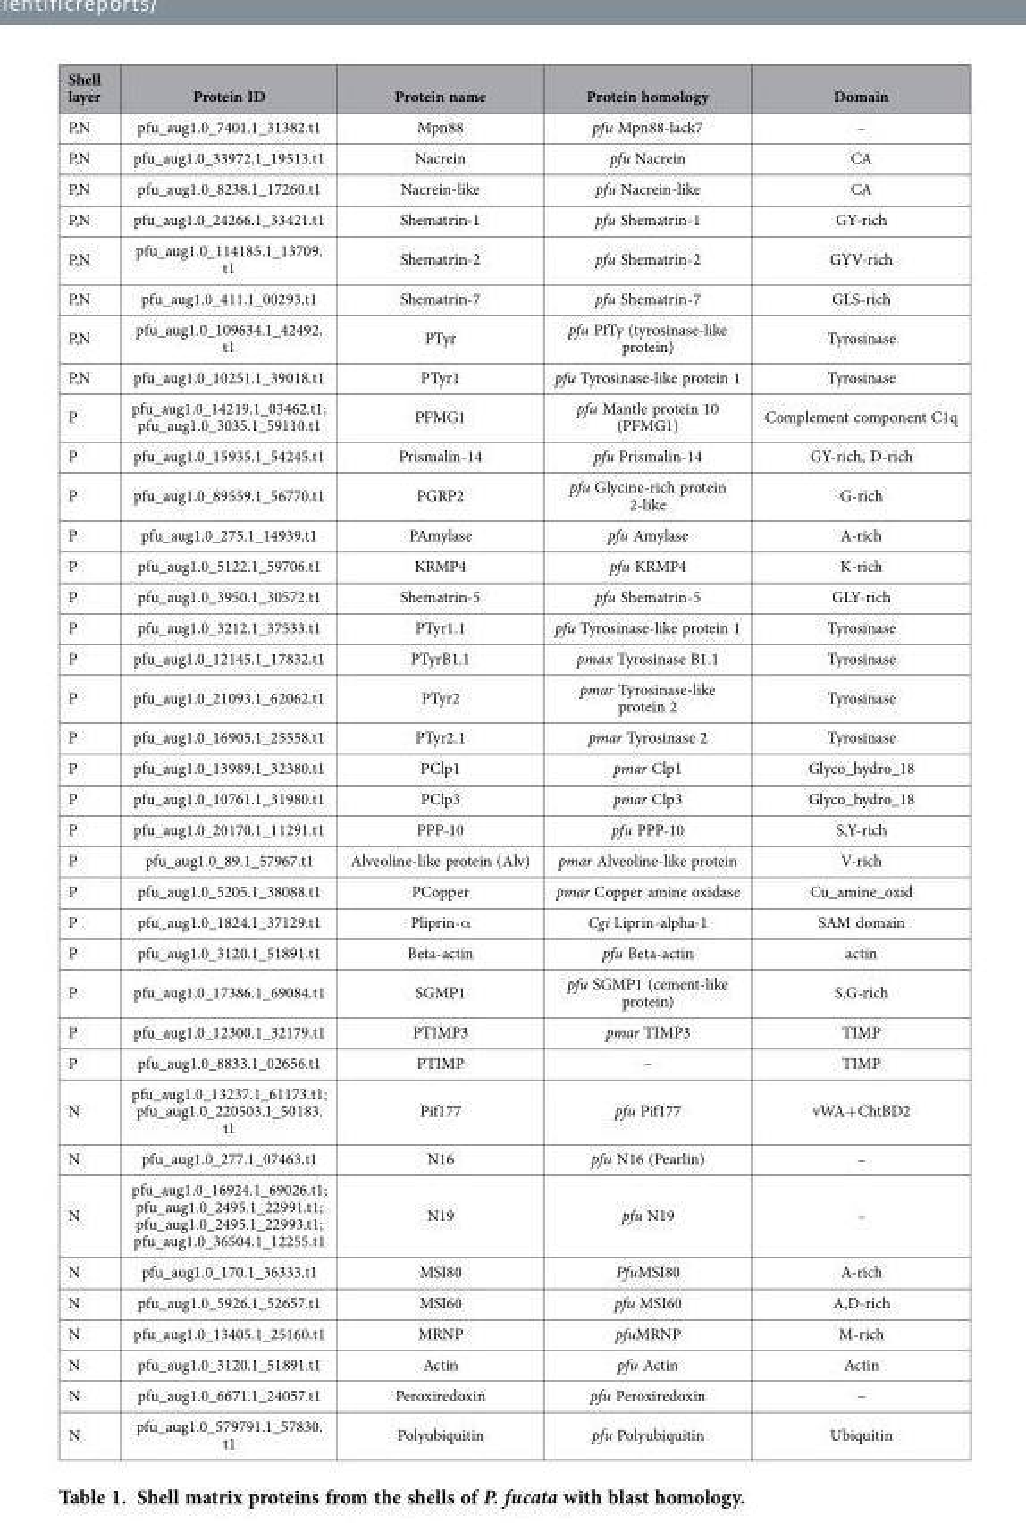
<table><thead><tr><td>Shell layer</td><td>Protein ID</td><td>Protein name</td><td>Protein homology</td><td>Domain</td></tr></thead><tbody><tr><td>P,N</td><td>pfu_aug1.0_7401.1_31382.t1</td><td>Mpn88</td><td>pfu Mpn88-lack7</td><td>–</td></tr><tr><td>P,N</td><td>pfu_aug1.0_33972.1_19513.t1</td><td>Nacrein</td><td>pfu Nacrein</td><td>CA</td></tr><tr><td>P,N</td><td>pfu_aug1.0_8238.1_17260.t1</td><td>Nacrein-like</td><td>pfu Nacrein-like</td><td>CA</td></tr><tr><td>P,N</td><td>pfu_aug1.0_24266.1_33421.t1</td><td>Shematrin-1</td><td>pfu Shematrin-1</td><td>GY-rich</td></tr><tr><td>P,N</td><td>pfu_aug1.0_114185.1_13709. t1</td><td>Shematrin-2</td><td>pfu Shematrin-2</td><td>GYV-rich</td></tr><tr><td>P,N</td><td>pfu_aug1.0_411.1_00293.t1</td><td>Shematrin-7</td><td>pfu Shematrin-7</td><td>GLS-rich</td></tr><tr><td>P,N</td><td>pfu_aug1.0_109634.1_42492. t1</td><td>PTyr</td><td>pfu PfTy (tyrosinase-like protein)</td><td>Tyrosinase</td></tr><tr><td>P,N</td><td>pfu_aug1.0_10251.1_39018.t1</td><td>PTyr1</td><td>pfu Tyrosinase-like protein 1</td><td>Tyrosinase</td></tr><tr><td>P</td><td>pfu_aug1.0_14219.1_03462.t1; pfu_aug1.0_3035.1_59110.t1</td><td>PFMG1</td><td>pfu Mantle protein 10 (PFMG1)</td><td>Complement component C1q</td></tr><tr><td>P</td><td>pfu_aug1.0_15935.1_54245.t1</td><td>Prismalin-14</td><td>pfu Prismalin-14</td><td>GY-rich, D-rich</td></tr><tr><td>P</td><td>pfu_aug1.0_89559.1_56770.t1</td><td>PGRP2</td><td>pfu Glycine-rich protein 2-like</td><td>G-rich</td></tr><tr><td>P</td><td>pfu_aug1.0_275.1_14939.t1</td><td>PAmylase</td><td>pfu Amylase</td><td>A-rich</td></tr><tr><td>P</td><td>pfu_aug1.0_5122.1_59706.t1</td><td>KRMP4</td><td>pfu KRMP4</td><td>K-rich</td></tr><tr><td>P</td><td>pfu_aug1.0_3950.1_30572.t1</td><td>Shematrin-5</td><td>pfu Shematrin-5</td><td>GLY-rich</td></tr><tr><td>P</td><td>pfu_aug1.0_3212.1_37533.t1</td><td>PTyr1.1</td><td>pfu Tyrosinase-like protein 1</td><td>Tyrosinase</td></tr><tr><td>P</td><td>pfu_aug1.0_12145.1_17832.t1</td><td>PTyrB1.1</td><td>pmax Tyrosinase B1.1</td><td>Tyrosinase</td></tr><tr><td>P</td><td>pfu_aug1.0_21093.1_62062.t1</td><td>PTyr2</td><td>pmar Tyrosinase-like protein 2</td><td>Tyrosinase</td></tr><tr><td>P</td><td>pfu_aug1.0_16905.1_25558.t1</td><td>PTyr2.1</td><td>pmar Tyrosinase 2</td><td>Tyrosinase</td></tr><tr><td>P</td><td>pfu_aug1.0_13989.1_32380.t1</td><td>PClp1</td><td>pmar Clp1</td><td>Glyco_hydro_18</td></tr><tr><td>P</td><td>pfu_aug1.0_10761.1_31980.t1</td><td>PClp3</td><td>pmar Clp3</td><td>Glyco_hydro_18</td></tr><tr><td>P</td><td>pfu_aug1.0_20170.1_11291.t1</td><td>PPP-10</td><td>pfu PPP-10</td><td>S,Y-rich</td></tr><tr><td>P</td><td>pfu_aug1.0_89.1_57967.t1</td><td>Alveoline-like protein (Alv)</td><td>pmar Alveoline-like protein</td><td>V-rich</td></tr><tr><td>P</td><td>pfu_aug1.0_5205.1_38088.t1</td><td>PCopper</td><td>pmar Copper amine oxidase</td><td>Cu_amine_oxid</td></tr><tr><td>P</td><td>pfu_aug1.0_1824.1_37129.t1</td><td>Pliprin-α</td><td>Cgi Liprin-alpha-1</td><td>SAM domain</td></tr><tr><td>P</td><td>pfu_aug1.0_3120.1_51891.t1</td><td>Beta-actin</td><td>pfu Beta-actin</td><td>actin</td></tr><tr><td>P</td><td>pfu_aug1.0_17386.1_69084.t1</td><td>SGMP1</td><td>pfu SGMP1 (cement-like protein)</td><td>S,G-rich</td></tr><tr><td>P</td><td>pfu_aug1.0_12300.1_32179.t1</td><td>PTIMP3</td><td>pmar TIMP3</td><td>TIMP</td></tr><tr><td>P</td><td>pfu_aug1.0_8833.1_02656.t1</td><td>PTIMP</td><td>–</td><td>TIMP</td></tr><tr><td>N</td><td>pfu_aug1.0_13237.1_61173.t1; pfu_aug1.0_220503.1_50183. t1</td><td>Pif177</td><td>pfu Pif177</td><td>vWA+ ChtBD2</td></tr><tr><td>N</td><td>pfu_aug1.0_277.1_07463.t1</td><td>N16</td><td>pfu N16 (Pearlin)</td><td>–</td></tr><tr><td>N</td><td>pfu_aug1.0_16924.1_69026.t1; pfu_aug1.0_2495.1_22991.t1; pfu_aug1.0_2495.1_22993.t1; pfu_aug1.0_36504.1_12255.t1</td><td>N19</td><td>pfu N19</td><td>–</td></tr><tr><td>N</td><td>pfu_aug1.0_170.1_36333.t1</td><td>MSI80</td><td>PfuMSI80</td><td>A-rich</td></tr><tr><td>N</td><td>pfu_aug1.0_5926.1_52657.t1</td><td>MSI60</td><td>pfu MSI60</td><td>A,D-rich</td></tr><tr><td>N</td><td>pfu_aug1.0_13405.1_25160.t1</td><td>MRNP</td><td>pfuMRNP</td><td>M-rich</td></tr><tr><td>N</td><td>pfu_aug1.0_3120.1_51891.t1</td><td>Actin</td><td>pfu Actin</td><td>Actin</td></tr><tr><td>N</td><td>pfu_aug1.0_6671.1_24057.t1</td><td>Peroxiredoxin</td><td>pfu Peroxiredoxin</td><td>–</td></tr><tr><td>N</td><td>pfu_aug1.0_579791.1_57830. t1</td><td>Polyubiquitin</td><td>pfu Polyubiquitin</td><td>Ubiquitin</td></tr></tbody></table>